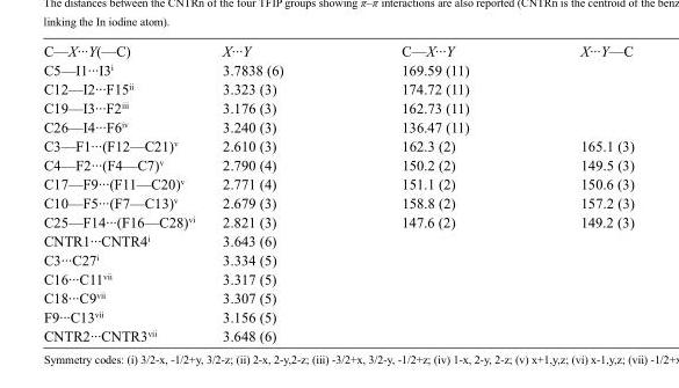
<table><tbody><tr><td>C—X···Y(—C)</td><td>X···Y</td><td>C—X···Y</td><td>X···Y—C</td></tr><tr><td>C5—I1···I3<sup>i</sup></td><td>3.7838 (6)</td><td>169.59 (11)</td><td></td></tr><tr><td>C12—I2···F15<sup>ii</sup></td><td>3.323 (3)</td><td>174.72 (11)</td><td></td></tr><tr><td>C19—I3···F2<sup>iii</sup></td><td>3.176 (3)</td><td>162.73 (11)</td><td></td></tr><tr><td>C26—I4···F6<sup>iv</sup></td><td>3.240 (3)</td><td>136.47 (11)</td><td></td></tr><tr><td>C3—F1···(F12—C21)<sup>v</sup></td><td>2.610 (3)</td><td>162.3 (2)</td><td>165.1 (3)</td></tr><tr><td>C4—F2···(F4—C7)<sup>v</sup></td><td>2.790 (4)</td><td>150.2 (2)</td><td>149.5 (3)</td></tr><tr><td>C17—F9···(F11—C20)<sup>v</sup></td><td>2.771 (4)</td><td>151.1 (2)</td><td>150.6 (3)</td></tr><tr><td>C10—F5···(F7—C13)<sup>v</sup></td><td>2.679 (3)</td><td>158.8 (2)</td><td>157.2 (3)</td></tr><tr><td>C25—F14···(F16—C28)<sup>vi</sup></td><td>2.821 (3)</td><td>147.6 (2)</td><td>149.2 (3)</td></tr><tr><td>CNTR1···CNTR4<sup>i</sup></td><td>3.643 (6)</td><td></td><td></td></tr><tr><td>C3···C27<sup>i</sup></td><td>3.334 (5)</td><td></td><td></td></tr><tr><td>C16···C11<sup>vii</sup></td><td>3.317 (5)</td><td></td><td></td></tr><tr><td>C18···C9<sup>vii</sup></td><td>3.307 (5)</td><td></td><td></td></tr><tr><td>F9···C13<sup>vii</sup></td><td>3.156 (5)</td><td></td><td></td></tr><tr><td>CNTR2···CNTR3<sup>vii</sup></td><td>3.648 (6)</td><td></td><td></td></tr></tbody></table>